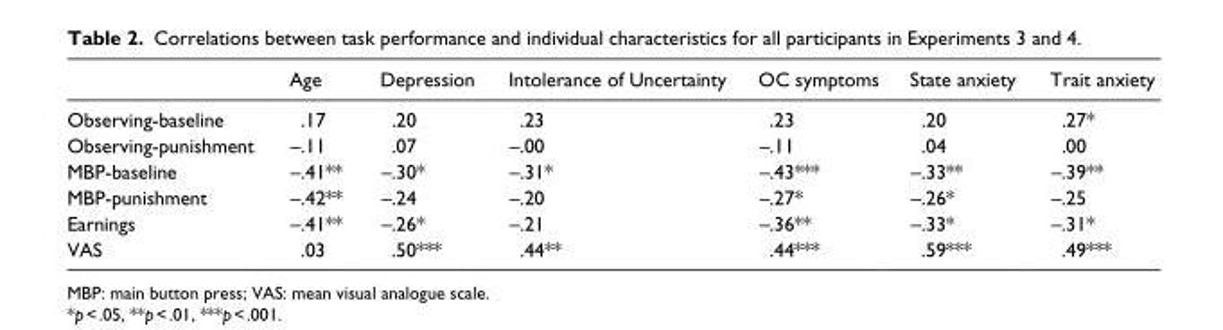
<table><thead><tr><td></td><td>Age</td><td>Depression</td><td>Intolerance of Uncertainty</td><td>OC symptoms</td><td>State anxiety</td><td>Trait anxiety</td></tr></thead><tbody><tr><td>Observing-baseline</td><td>.17</td><td>.20</td><td>.23</td><td>.23</td><td>.20</td><td>.27*</td></tr><tr><td>Observing-punishment</td><td>–.11</td><td>.07</td><td>–.00</td><td>–.11</td><td>.04</td><td>.00</td></tr><tr><td>MBP-baseline</td><td>–.41**</td><td>–.30*</td><td>–.31*</td><td>–.43***</td><td>–.33**</td><td>–.39**</td></tr><tr><td>MBP-punishment</td><td>–.42**</td><td>–.24</td><td>–.20</td><td>–.27*</td><td>–.26*</td><td>–.25</td></tr><tr><td>Earnings</td><td>–.41**</td><td>–.26*</td><td>–.21</td><td>–.36**</td><td>–.33*</td><td>–.31*</td></tr><tr><td>VAS</td><td>.03</td><td>.50***</td><td>.44**</td><td>.44***</td><td>.59***</td><td>.49***</td></tr></tbody></table>